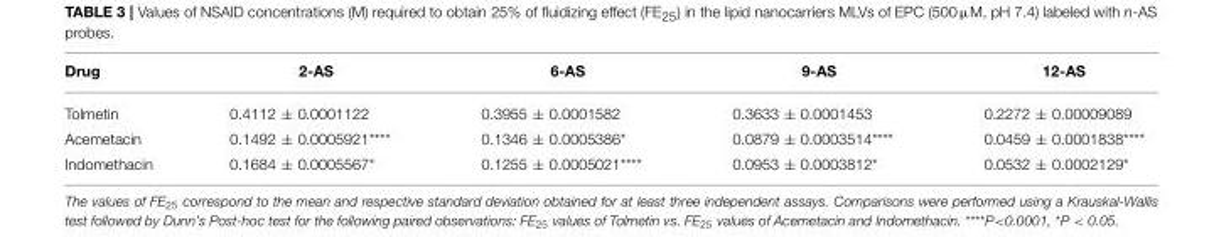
<table><thead><tr><td>Drug</td><td>2-AS</td><td>6-AS</td><td>9-AS</td><td>12-AS</td></tr></thead><tbody><tr><td>Tolmetin</td><td>0.4112 ± 0.0001122</td><td>0.3955 ± 0.0001582</td><td>0.3633 ± 0.0001453</td><td>0.2272 ± 0.00009089</td></tr><tr><td>Acemetacin</td><td>0.1492 ± 0.0005921****</td><td>0.1346 ± 0.0005386*</td><td>0.0879 ± 0.0003514****</td><td>0.0459 ± 0.0001838****</td></tr><tr><td>Indomethacin</td><td>0.1684 ± 0.0005567*</td><td>0.1255 ± 0.0005021****</td><td>0.0953 ± 0.0003812*</td><td>0.0532 ± 0.0002129*</td></tr></tbody></table>